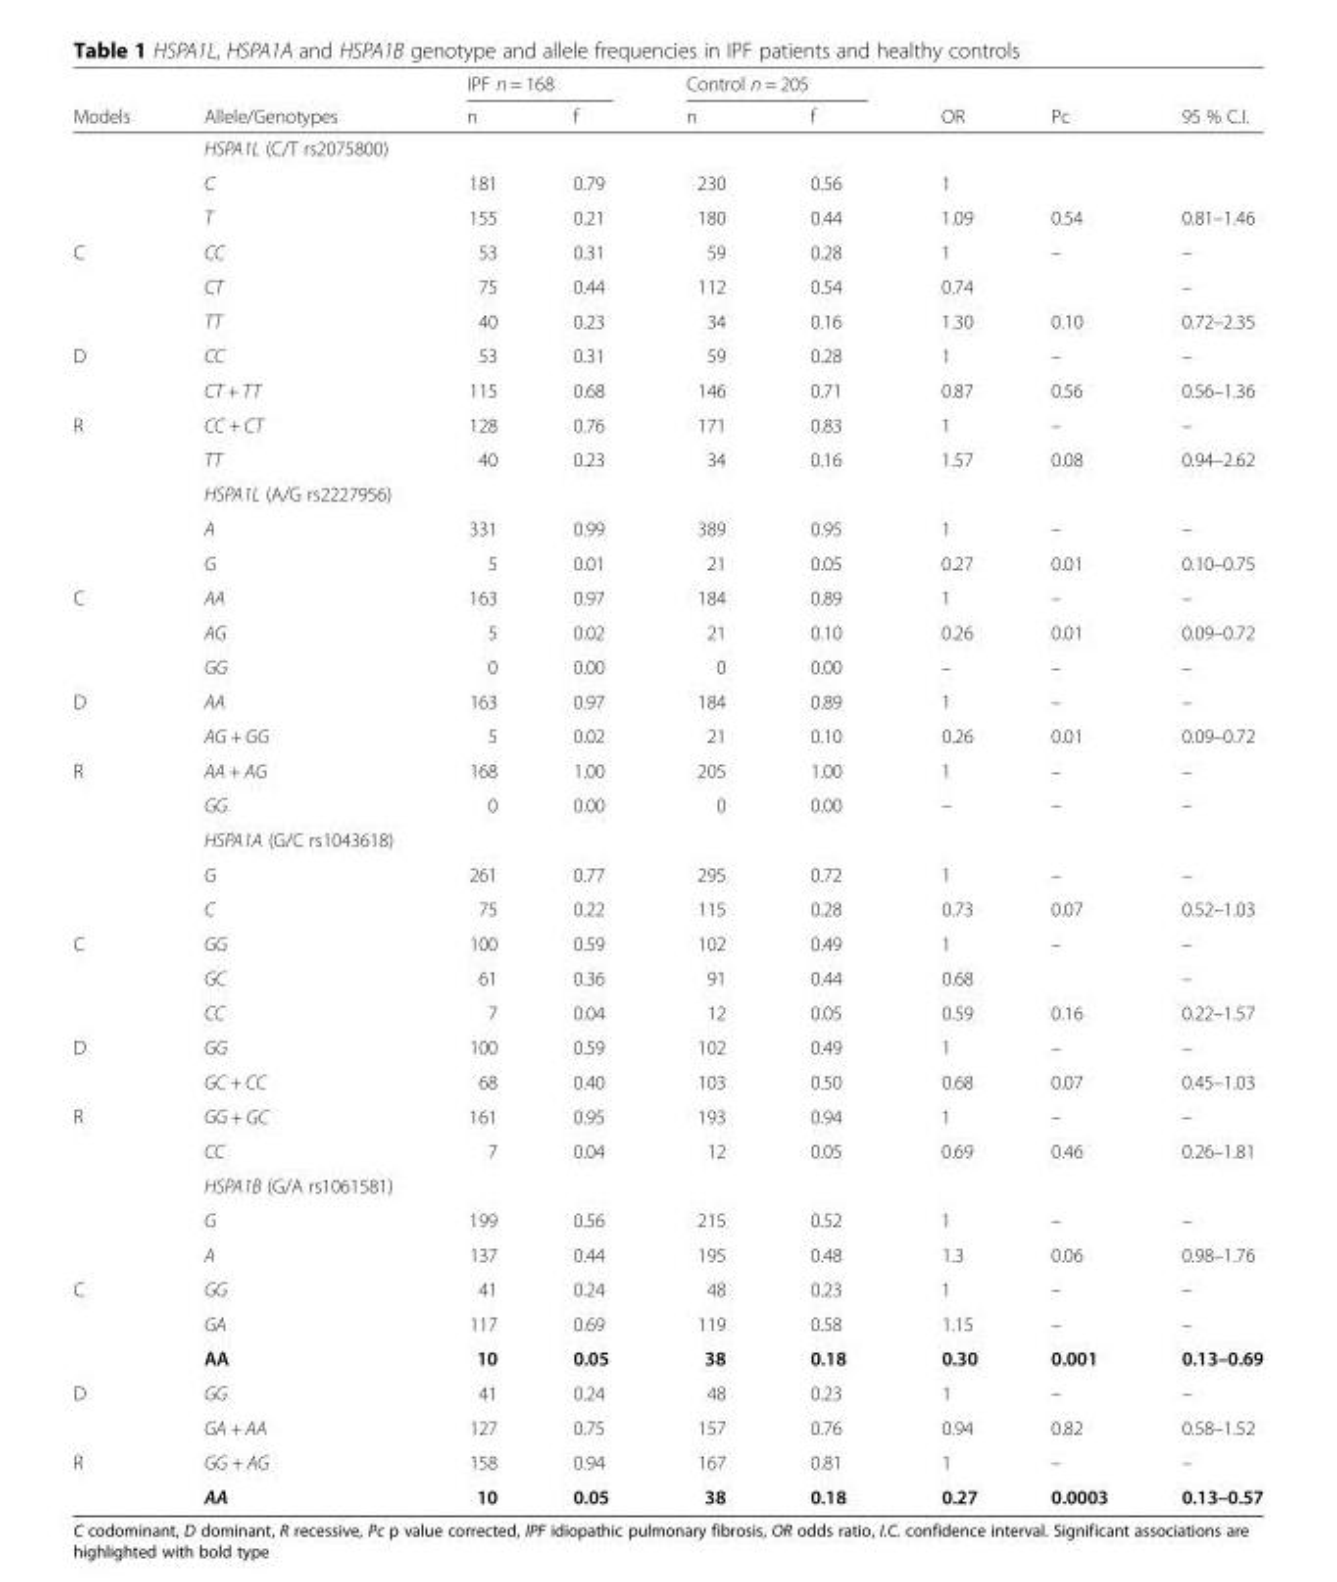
<table><thead><tr><td rowspan="2">Models</td><td rowspan="2">Allele/Genotypes</td><td colspan="2">IPF n = 168</td><td colspan="2">Control n = 205</td><td rowspan="2">OR</td><td rowspan="2">Pc</td><td rowspan="2">95 % C.I.</td></tr><tr><td>n</td><td>f</td><td>n</td><td>f</td></tr></thead><tbody><tr><td></td><td>HSPA1L (C/T rs2075800)</td><td></td><td></td><td></td><td></td><td></td><td></td><td></td></tr><tr><td></td><td>C</td><td>181</td><td>0.79</td><td>230</td><td>0.56</td><td>1</td><td></td><td></td></tr><tr><td></td><td>T</td><td>155</td><td>0.21</td><td>180</td><td>0.44</td><td>1.09</td><td>0.54</td><td>0.81–1.46</td></tr><tr><td rowspan="3">C</td><td>CC</td><td>53</td><td>0.31</td><td>59</td><td>0.28</td><td>1</td><td>–</td><td>–</td></tr><tr><td>CT</td><td>75</td><td>0.44</td><td>112</td><td>0.54</td><td>0.74</td><td></td><td>–</td></tr><tr><td>TT</td><td>40</td><td>0.23</td><td>34</td><td>0.16</td><td>1.30</td><td>0.10</td><td>0.72–2.35</td></tr><tr><td rowspan="2">D</td><td>CC</td><td>53</td><td>0.31</td><td>59</td><td>0.28</td><td>1</td><td>–</td><td>–</td></tr><tr><td>CT + TT</td><td>115</td><td>0.68</td><td>146</td><td>0.71</td><td>0.87</td><td>0.56</td><td>0.56–1.36</td></tr><tr><td rowspan="5">R</td><td>CC + CT</td><td>128</td><td>0.76</td><td>171</td><td>0.83</td><td>1</td><td>–</td><td>–</td></tr><tr><td>TT</td><td>40</td><td>0.23</td><td>34</td><td>0.16</td><td>1.57</td><td>0.08</td><td>0.94–2.62</td></tr><tr><td>HSPA1L (A/G rs2227956)</td><td></td><td></td><td></td><td></td><td></td><td></td><td></td></tr><tr><td>A</td><td>331</td><td>0.99</td><td>389</td><td>0.95</td><td>1</td><td>–</td><td>–</td></tr><tr><td>G</td><td>5</td><td>0.01</td><td>21</td><td>0.05</td><td>0.27</td><td>0.01</td><td>0.10–0.75</td></tr><tr><td rowspan="3">C</td><td>AA</td><td>163</td><td>0.97</td><td>184</td><td>0.89</td><td>1</td><td>–</td><td>–</td></tr><tr><td>AG</td><td>5</td><td>0.02</td><td>21</td><td>0.10</td><td>0.26</td><td>0.01</td><td>0.09–0.72</td></tr><tr><td>GG</td><td>0</td><td>0.00</td><td>0</td><td>0.00</td><td>–</td><td>–</td><td>–</td></tr><tr><td rowspan="2">D</td><td>AA</td><td>163</td><td>0.97</td><td>184</td><td>0.89</td><td>1</td><td>–</td><td>–</td></tr><tr><td>AG + GG</td><td>5</td><td>0.02</td><td>21</td><td>0.10</td><td>0.26</td><td>0.01</td><td>0.09–0.72</td></tr><tr><td rowspan="5">R</td><td>AA + AG</td><td>168</td><td>1.00</td><td>205</td><td>1.00</td><td>1</td><td>–</td><td>–</td></tr><tr><td>GG</td><td>0</td><td>0.00</td><td>0</td><td>0.00</td><td>–</td><td>–</td><td>–</td></tr><tr><td>HSPA1A (G/C rs1043618)</td><td></td><td></td><td></td><td></td><td></td><td></td><td></td></tr><tr><td>G</td><td>261</td><td>0.77</td><td>295</td><td>0.72</td><td>1</td><td>–</td><td>–</td></tr><tr><td>C</td><td>75</td><td>0.22</td><td>115</td><td>0.28</td><td>0.73</td><td>0.07</td><td>0.52–1.03</td></tr><tr><td rowspan="3">C</td><td>GG</td><td>100</td><td>0.59</td><td>102</td><td>0.49</td><td>1</td><td>–</td><td>–</td></tr><tr><td>GC</td><td>61</td><td>0.36</td><td>91</td><td>0.44</td><td>0.68</td><td></td><td>–</td></tr><tr><td>CC</td><td>7</td><td>0.04</td><td>12</td><td>0.05</td><td>0.59</td><td>0.16</td><td>0.22–1.57</td></tr><tr><td rowspan="2">D</td><td>GG</td><td>100</td><td>0.59</td><td>102</td><td>0.49</td><td>1</td><td>–</td><td>–</td></tr><tr><td>GC + CC</td><td>68</td><td>0.40</td><td>103</td><td>0.50</td><td>0.68</td><td>0.07</td><td>0.45–1.03</td></tr><tr><td rowspan="5">R</td><td>GG + GC</td><td>161</td><td>0.95</td><td>193</td><td>0.94</td><td>1</td><td>–</td><td>–</td></tr><tr><td>CC</td><td>7</td><td>0.04</td><td>12</td><td>0.05</td><td>0.69</td><td>0.46</td><td>0.26–1.81</td></tr><tr><td>HSPA1B (G/A rs1061581)</td><td></td><td></td><td></td><td></td><td></td><td></td><td></td></tr><tr><td>G</td><td>199</td><td>0.56</td><td>215</td><td>0.52</td><td>1</td><td>–</td><td>–</td></tr><tr><td>A</td><td>137</td><td>0.44</td><td>195</td><td>0.48</td><td>1.3</td><td>0.06</td><td>0.98–1.76</td></tr><tr><td rowspan="3">C</td><td>GG</td><td>41</td><td>0.24</td><td>48</td><td>0.23</td><td>1</td><td>–</td><td>–</td></tr><tr><td>GA</td><td>117</td><td>0.69</td><td>119</td><td>0.58</td><td>1.15</td><td>–</td><td>–</td></tr><tr><td>AA</td><td>10</td><td>0.05</td><td>38</td><td>0.18</td><td>0.30</td><td>0.001</td><td>0.13–0.69</td></tr><tr><td rowspan="2">D</td><td>GG</td><td>41</td><td>0.24</td><td>48</td><td>0.23</td><td>1</td><td>–</td><td>–</td></tr><tr><td>GA + AA</td><td>127</td><td>0.75</td><td>157</td><td>0.76</td><td>0.94</td><td>0.82</td><td>0.58–1.52</td></tr><tr><td rowspan="2">R</td><td>GG + AG</td><td>158</td><td>0.94</td><td>167</td><td>0.81</td><td>1</td><td>–</td><td>–</td></tr><tr><td>AA</td><td>10</td><td>0.05</td><td>38</td><td>0.18</td><td>0.27</td><td>0.0003</td><td>0.13–0.57</td></tr></tbody></table>